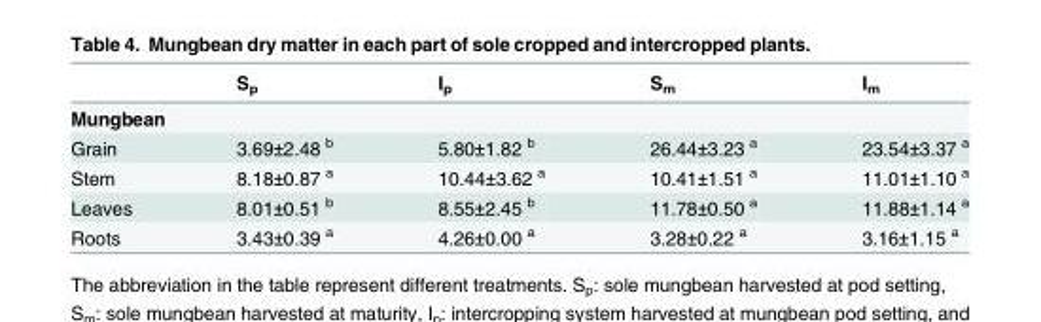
<table><thead><tr><td></td><td>S<sub>p</sub></td><td>I<sub>p</sub></td><td>S<sub>m</sub></td><td>I<sub>m</sub></td></tr></thead><tbody><tr><td colspan="5">Mungbean</td></tr><tr><td>Grain</td><td>3.69±2.48 <sup>b</sup></td><td>5.80±1.82 <sup>b</sup></td><td>26.44±3.23 <sup>a</sup></td><td>23.54±3.37 <sup>a</sup></td></tr><tr><td>Stem</td><td>8.18±0.87 <sup>a</sup></td><td>10.44±3.62 <sup>a</sup></td><td>10.41±1.51 <sup>a</sup></td><td>11.01±1.10 <sup>a</sup></td></tr><tr><td>Leaves</td><td>8.01±0.51 <sup>b</sup></td><td>8.55±2.45 <sup>b</sup></td><td>11.78±0.50 <sup>a</sup></td><td>11.88±1.14 <sup>a</sup></td></tr><tr><td>Roots</td><td>3.43±0.39 <sup>a</sup></td><td>4.26±0.00 <sup>a</sup></td><td>3.28±0.22 <sup>a</sup></td><td>3.16±1.15 <sup>a</sup></td></tr></tbody></table>